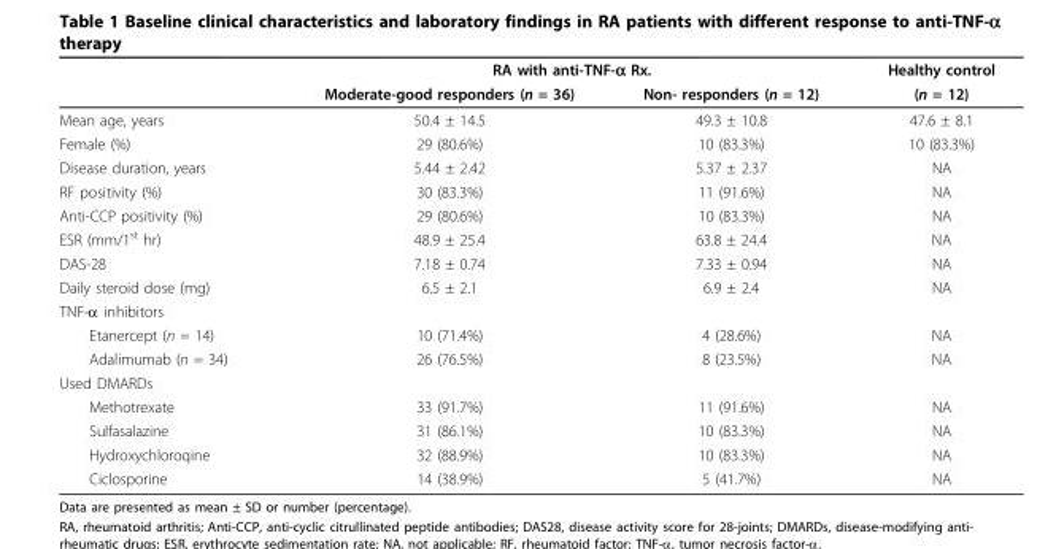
<table><thead><tr><td rowspan="2"></td><td colspan="2">RA with anti-TNF-α Rx.</td><td rowspan="2">Healthy control (n = 12)</td></tr><tr><td>Moderate-good responders (n = 36)</td><td>Non- responders (n = 12)</td></tr></thead><tbody><tr><td>Mean age, years</td><td>50.4 ± 14.5</td><td>49.3 ± 10.8</td><td>47.6 ± 8.1</td></tr><tr><td>Female (%)</td><td>29 (80.6%)</td><td>10 (83.3%)</td><td>10 (83.3%)</td></tr><tr><td>Disease duration, years</td><td>5.44 ± 2.42</td><td>5.37 ± 2.37</td><td>NA</td></tr><tr><td>RF positivity (%)</td><td>30 (83.3%)</td><td>11 (91.6%)</td><td>NA</td></tr><tr><td>Anti-CCP positivity (%)</td><td>29 (80.6%)</td><td>10 (83.3%)</td><td>NA</td></tr><tr><td>ESR (mm/1<sup>st</sup> hr)</td><td>48.9 ± 25.4</td><td>63.8 ± 24.4</td><td>NA</td></tr><tr><td>DAS-28</td><td>7.18 ± 0.74</td><td>7.33 ± 0.94</td><td>NA</td></tr><tr><td>Daily steroid dose (mg)</td><td>6.5 ± 2.1</td><td>6.9 ± 2.4</td><td>NA</td></tr><tr><td colspan="4">TNF-α inhibitors</td></tr><tr><td>Etanercept (n = 14)</td><td>10 (71.4%)</td><td>4 (28.6%)</td><td>NA</td></tr><tr><td>Adalimumab (n = 34)</td><td>26 (76.5%)</td><td>8 (23.5%)</td><td>NA</td></tr><tr><td colspan="4">Used DMARDs</td></tr><tr><td>Methotrexate</td><td>33 (91.7%)</td><td>11 (91.6%)</td><td>NA</td></tr><tr><td>Sulfasalazine</td><td>31 (86.1%)</td><td>10 (83.3%)</td><td>NA</td></tr><tr><td>Hydroxychloroqine</td><td>32 (88.9%)</td><td>10 (83.3%)</td><td>NA</td></tr><tr><td>Ciclosporine</td><td>14 (38.9%)</td><td>5 (41.7%)</td><td>NA</td></tr></tbody></table>